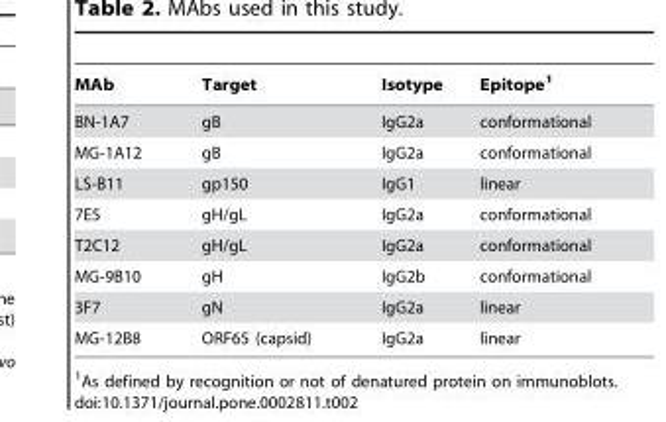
<table><thead><tr><td>MAb</td><td>Target</td><td>Isotype</td><td>Epitope<sup>1</sup></td></tr></thead><tbody><tr><td>BN-1A7</td><td>gB</td><td>IgG2a</td><td>conformational</td></tr><tr><td>MG-1A12</td><td>gB</td><td>IgG2a</td><td>conformational</td></tr><tr><td>LS-B11</td><td>gp150</td><td>IgG1</td><td>linear</td></tr><tr><td>7E5</td><td>gH/gL</td><td>IgG2a</td><td>conformational</td></tr><tr><td>T2C12</td><td>gH/gL</td><td>IgG2a</td><td>conformational</td></tr><tr><td>MG-9B10</td><td>gH</td><td>IgG2b</td><td>conformational</td></tr><tr><td>3F7</td><td>gN</td><td>IgG2a</td><td>linear</td></tr><tr><td>MG-12B8</td><td>ORF65 (capsid)</td><td>IgG2a</td><td>linear</td></tr></tbody></table>